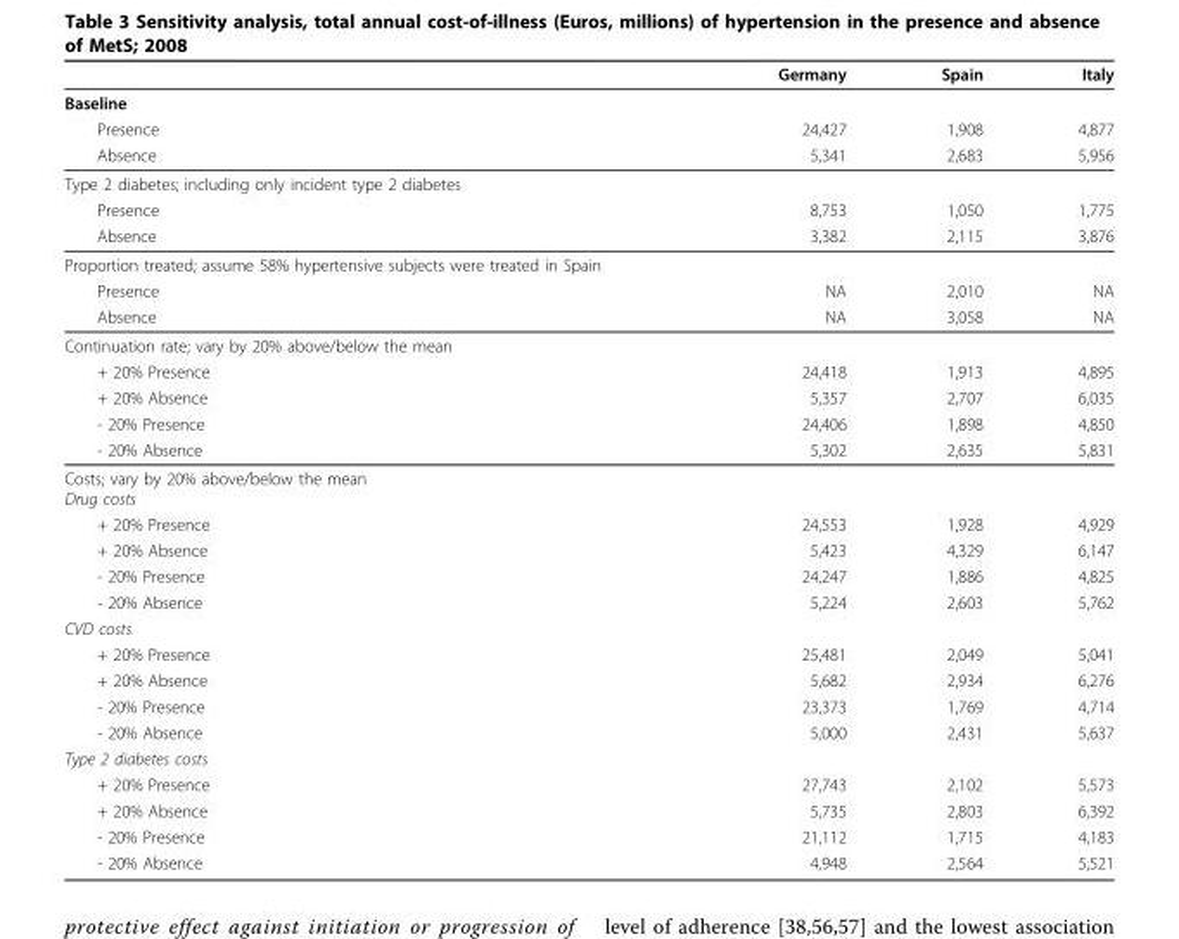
<table><thead><tr><td></td><td>Germany</td><td>Spain</td><td>Italy</td></tr></thead><tbody><tr><td colspan="4">Baseline</td></tr><tr><td>Presence</td><td>24,427</td><td>1,908</td><td>4,877</td></tr><tr><td>Absence</td><td>5,341</td><td>2,683</td><td>5,956</td></tr><tr><td colspan="4">Type 2 diabetes; including only incident type 2 diabetes</td></tr><tr><td>Presence</td><td>8,753</td><td>1,050</td><td>1,775</td></tr><tr><td>Absence</td><td>3,382</td><td>2,115</td><td>3,876</td></tr><tr><td colspan="4">Proportion treated; assume 58% hypertensive subjects were treated in Spain</td></tr><tr><td>Presence</td><td>NA</td><td>2,010</td><td>NA</td></tr><tr><td>Absence</td><td>NA</td><td>3,058</td><td>NA</td></tr><tr><td colspan="4">Continuation rate; vary by 20% above/below the mean</td></tr><tr><td>+ 20% Presence</td><td>24,418</td><td>1,913</td><td>4,895</td></tr><tr><td>+ 20% Absence</td><td>5,357</td><td>2,707</td><td>6,035</td></tr><tr><td>- 20% Presence</td><td>24,406</td><td>1,898</td><td>4,850</td></tr><tr><td>- 20% Absence</td><td>5,302</td><td>2,635</td><td>5,831</td></tr><tr><td colspan="4">Costs; vary by 20% above/below the mean Drug costs</td></tr><tr><td>+ 20% Presence</td><td>24,553</td><td>1,928</td><td>4,929</td></tr><tr><td>+ 20% Absence</td><td>5,423</td><td>4,329</td><td>6,147</td></tr><tr><td>- 20% Presence</td><td>24,247</td><td>1,886</td><td>4,825</td></tr><tr><td>- 20% Absence</td><td>5,224</td><td>2,603</td><td>5,762</td></tr><tr><td colspan="4">CVD costs</td></tr><tr><td>+ 20% Presence</td><td>25,481</td><td>2,049</td><td>5,041</td></tr><tr><td>+ 20% Absence</td><td>5,682</td><td>2,934</td><td>6,276</td></tr><tr><td>- 20% Presence</td><td>23,373</td><td>1,769</td><td>4,714</td></tr><tr><td>- 20% Absence</td><td>5,000</td><td>2,431</td><td>5,637</td></tr><tr><td colspan="4">Type 2 diabetes costs</td></tr><tr><td>+ 20% Presence</td><td>27,743</td><td>2,102</td><td>5,573</td></tr><tr><td>+ 20% Absence</td><td>5,735</td><td>2,803</td><td>6,392</td></tr><tr><td>- 20% Presence</td><td>21,112</td><td>1,715</td><td>4,183</td></tr><tr><td>- 20% Absence</td><td>4,948</td><td>2,564</td><td>5,521</td></tr></tbody></table>